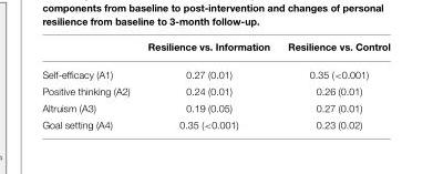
<table><thead><tr><td></td><td>Resilience vs. Information</td><td>Resilience vs. Control</td></tr></thead><tbody><tr><td>Self-efficacy (A1)</td><td>0.27 (0.01)</td><td>0.35 (&lt;0.001)</td></tr><tr><td>Positive thinking (A2)</td><td>0.24 (0.01)</td><td>0.26 (0.01)</td></tr><tr><td>Altruism (A3)</td><td>0.19 (0.05)</td><td>0.27 (0.01)</td></tr><tr><td>Goal setting (A4)</td><td>0.35 (&lt;0.001)</td><td>0.23 (0.02)</td></tr></tbody></table>